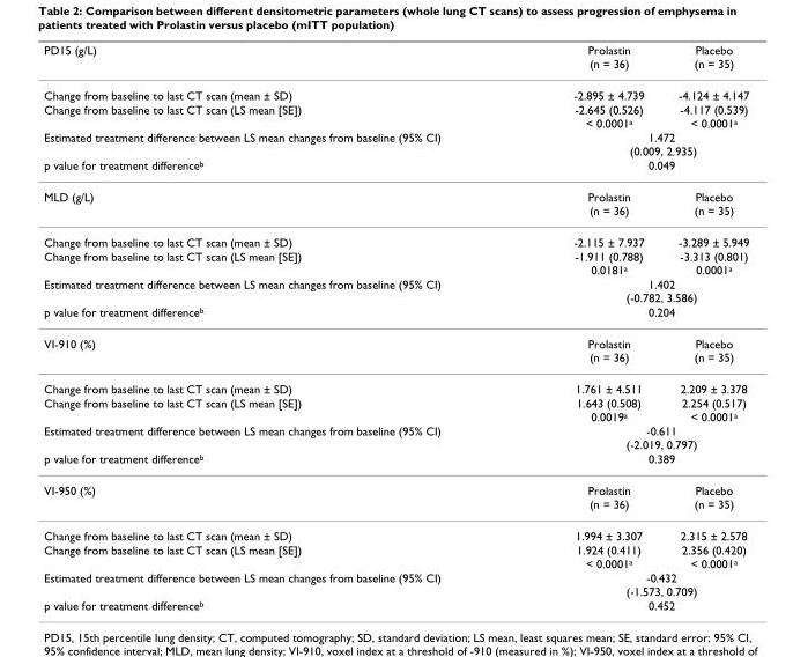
<table><thead><tr><td>PD15 (g/L)</td><td>Prolastin (n = 36)</td><td>Placebo (n = 35)</td></tr></thead><tbody><tr><td>Change from baseline to last CT scan (mean ± SD)</td><td>-2.895 ± 4.739</td><td>-4.124 ± 4.147</td></tr><tr><td>Change from baseline to last CT scan (LS mean [SE])</td><td>-2.645 (0.526) &lt; 0.0001<sup>a</sup></td><td>-4.117 (0.539) &lt; 0.0001<sup>a</sup></td></tr><tr><td>Estimated treatment difference between LS mean changes from baseline (95% CI)</td><td colspan="2">1.472 (0.009, 2.935)</td></tr><tr><td>p value for treatment difference<sup>b</sup></td><td colspan="2">0.049</td></tr><tr><td>MLD (g/L)</td><td>Prolastin (n = 36)</td><td>Placebo (n = 35)</td></tr><tr><td>Change from baseline to last CT scan (mean ± SD)</td><td>-2.115 ± 7.937</td><td>-3.289 ± 5.949</td></tr><tr><td>Change from baseline to last CT scan (LS mean [SE])</td><td>-1.911 (0.788) 0.0181<sup>a</sup></td><td>-3.313 (0.801) 0.0001<sup>a</sup></td></tr><tr><td>Estimated treatment difference between LS mean changes from baseline (95% CI)</td><td colspan="2">1.402 (-0.782, 3.586)</td></tr><tr><td>p value for treatment difference<sup>b</sup></td><td colspan="2">0.204</td></tr><tr><td>VI-910 (%)</td><td>Prolastin (n = 36)</td><td>Placebo (n = 35)</td></tr><tr><td>Change from baseline to last CT scan (mean ± SD)</td><td>1.761 ± 4.511</td><td>2.209 ± 3.378</td></tr><tr><td>Change from baseline to last CT scan (LS mean [SE])</td><td>1.643 (0.508) 0.0019<sup>a</sup></td><td>2.254 (0.517) &lt; 0.0001<sup>a</sup></td></tr><tr><td>Estimated treatment difference between LS mean changes from baseline (95% CI)</td><td colspan="2">-0.611 (-2.019, 0.797)</td></tr><tr><td>p value for treatment difference<sup>b</sup></td><td colspan="2">0.389</td></tr><tr><td>VI-950 (%)</td><td>Prolastin (n = 36)</td><td>Placebo (n = 35)</td></tr><tr><td>Change from baseline to last CT scan (mean ± SD)</td><td>1.994 ± 3.307</td><td>2.315 ± 2.578</td></tr><tr><td>Change from baseline to last CT scan (LS mean [SE])</td><td>1.924 (0.411) &lt; 0.0001<sup>a</sup></td><td>2.356 (0.420) &lt; 0.0001<sup>a</sup></td></tr><tr><td>Estimated treatment difference between LS mean changes from baseline (95% CI)</td><td colspan="2">-0.432 (-1.573, 0.709)</td></tr><tr><td>p value for treatment difference<sup>b</sup></td><td colspan="2">0.452</td></tr></tbody></table>